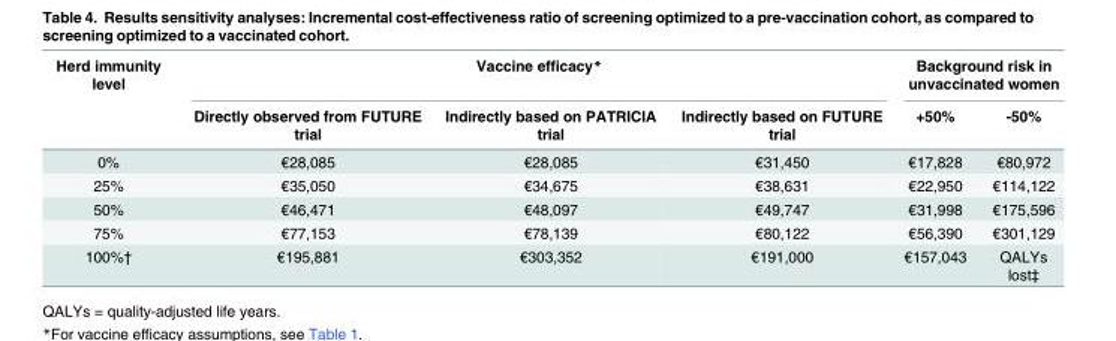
<table><thead><tr><td rowspan="2">Herd immunity level</td><td colspan="3">Vaccine efficacy*</td><td colspan="2">Background risk in unvaccinated women</td></tr><tr><td>Directly observed from FUTURE trial</td><td>Indirectly based on PATRICIA trial</td><td>Indirectly based on FUTURE trial</td><td>+50%</td><td>-50%</td></tr></thead><tbody><tr><td>0%</td><td>€28,085</td><td>€28,085</td><td>€31,450</td><td>€17,828</td><td>€80,972</td></tr><tr><td>25%</td><td>€35,050</td><td>€34,675</td><td>€38,631</td><td>€22,950</td><td>€114,122</td></tr><tr><td>50%</td><td>€46,471</td><td>€48,097</td><td>€49,747</td><td>€31,998</td><td>€175,596</td></tr><tr><td>75%</td><td>€77,153</td><td>€78,139</td><td>€80,122</td><td>€56,390</td><td>€301,129</td></tr><tr><td>100%†</td><td>€195,881</td><td>€303,352</td><td>€191,000</td><td>€157,043</td><td>QALYs lost‡</td></tr></tbody></table>